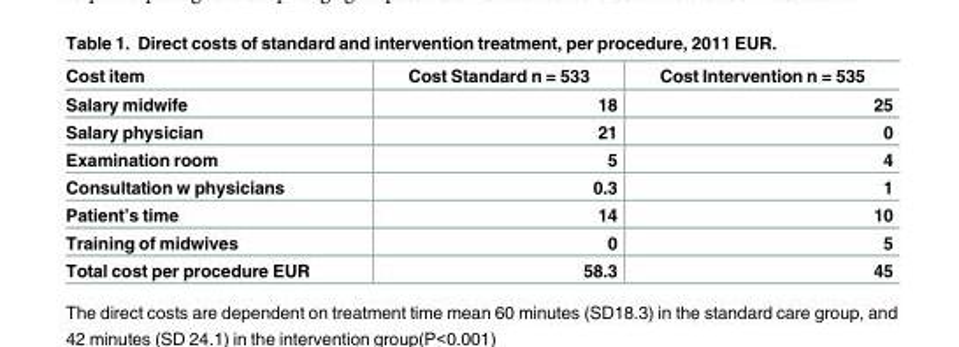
<table><thead><tr><td>Cost item</td><td>Cost Standard n = 533</td><td>Cost Intervention n = 535</td></tr></thead><tbody><tr><td>Salary midwife</td><td>18</td><td>25</td></tr><tr><td>Salary physician</td><td>21</td><td>0</td></tr><tr><td>Examination room</td><td>5</td><td>4</td></tr><tr><td>Consultation w physicians</td><td>0.3</td><td>1</td></tr><tr><td>Patient’s time</td><td>14</td><td>10</td></tr><tr><td>Training of midwives</td><td>0</td><td>5</td></tr><tr><td>Total cost per procedure EUR</td><td>58.3</td><td>45</td></tr></tbody></table>